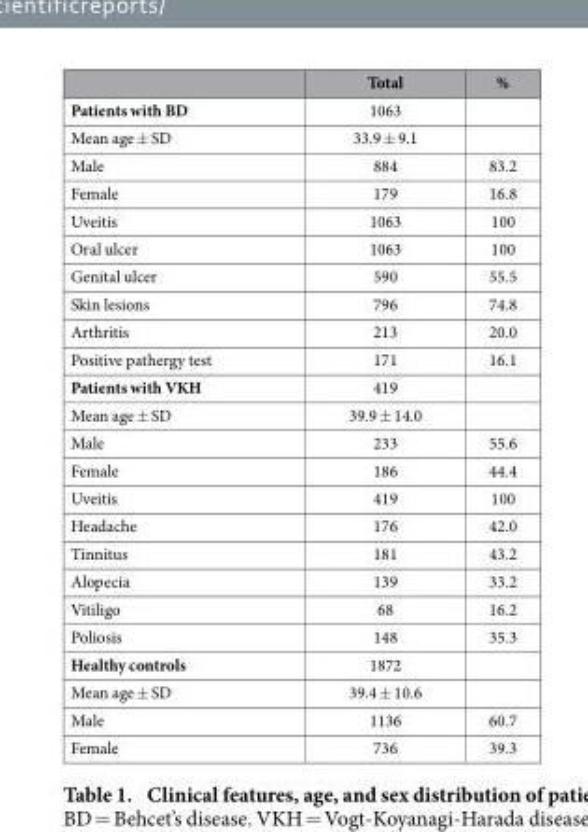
<table><thead><tr><td></td><td>Total</td><td>%</td></tr></thead><tbody><tr><td>Patients with BD</td><td>1063</td><td></td></tr><tr><td>Mean age ± SD</td><td>33.9 ± 9.1</td><td></td></tr><tr><td>Male</td><td>884</td><td>83.2</td></tr><tr><td>Female</td><td>179</td><td>16.8</td></tr><tr><td>Uveitis</td><td>1063</td><td>100</td></tr><tr><td>Oral ulcer</td><td>1063</td><td>100</td></tr><tr><td>Genital ulcer</td><td>590</td><td>55.5</td></tr><tr><td>Skin lesions</td><td>796</td><td>74.8</td></tr><tr><td>Arthritis</td><td>213</td><td>20.0</td></tr><tr><td>Positive pathergy test</td><td>171</td><td>16.1</td></tr><tr><td>Patients with VKH</td><td>419</td><td></td></tr><tr><td>Mean age ± SD</td><td>39.9 ± 14.0</td><td></td></tr><tr><td>Male</td><td>233</td><td>55.6</td></tr><tr><td>Female</td><td>186</td><td>44.4</td></tr><tr><td>Uveitis</td><td>419</td><td>100</td></tr><tr><td>Headache</td><td>176</td><td>42.0</td></tr><tr><td>Tinnitus</td><td>181</td><td>43.2</td></tr><tr><td>Alopecia</td><td>139</td><td>33.2</td></tr><tr><td>Vitiligo</td><td>68</td><td>16.2</td></tr><tr><td>Poliosis</td><td>148</td><td>35.3</td></tr><tr><td>Healthy controls</td><td>1872</td><td></td></tr><tr><td>Mean age ± SD</td><td>39.4 ± 10.6</td><td></td></tr><tr><td>Male</td><td>1136</td><td>60.7</td></tr><tr><td>Female</td><td>736</td><td>39.3</td></tr></tbody></table>